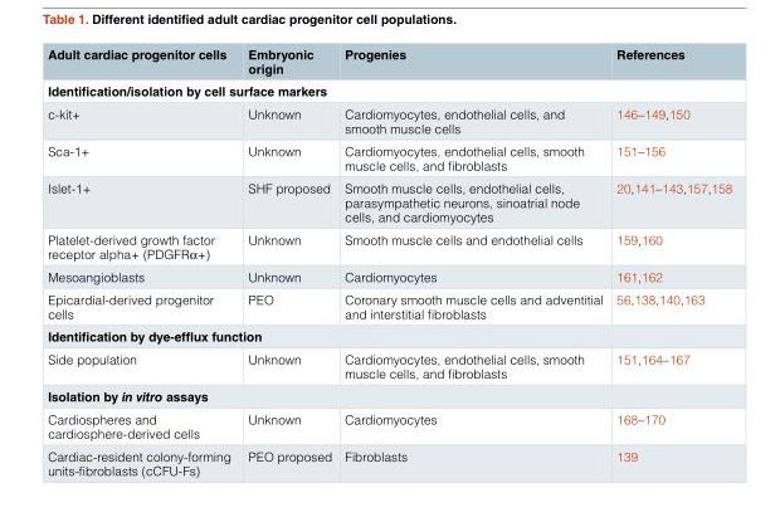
<table><thead><tr><td>Adult cardiac progenitor cells</td><td>Embryonic origin</td><td>Progenies</td><td>References</td></tr></thead><tbody><tr><td colspan="4">Identification/isolation by cell surface markers</td></tr><tr><td>c-kit+</td><td>Unknown</td><td>Cardiomyocytes, endothelial cells, and smooth muscle cells</td><td>146–149,150</td></tr><tr><td>Sca-1+</td><td>Unknown</td><td>Cardiomyocytes, endothelial cells, smooth muscle cells, and fibroblasts</td><td>151–156</td></tr><tr><td>Islet-1+</td><td>SHF proposed</td><td>Smooth muscle cells, endothelial cells, parasympathetic neurons, sinoatrial node cells, and cardiomyocytes</td><td>20,141–143,157,158</td></tr><tr><td>Platelet-derived growth factor receptor alpha+ (PDGFRα+)</td><td>Unknown</td><td>Smooth muscle cells and endothelial cells</td><td>159,160</td></tr><tr><td>Mesoangioblasts</td><td>Unknown</td><td>Cardiomyocytes</td><td>161,162</td></tr><tr><td>Epicardial-derived progenitor cells</td><td>PEO</td><td>Coronary smooth muscle cells and adventitial and interstitial fibroblasts</td><td>56,138,140,163</td></tr><tr><td colspan="4">Identification by dye-efflux function</td></tr><tr><td>Side population</td><td>Unknown</td><td>Cardiomyocytes, endothelial cells, smooth muscle cells, and fibroblasts</td><td>151,164–167</td></tr><tr><td colspan="4">Isolation by in vitro assays</td></tr><tr><td>Cardiospheres and cardiosphere-derived cells</td><td>Unknown</td><td>Cardiomyocytes</td><td>168–170</td></tr><tr><td>Cardiac-resident colony-forming units-fibroblasts (cCFU-Fs)</td><td>PEO proposed</td><td>Fibroblasts</td><td>139</td></tr></tbody></table>